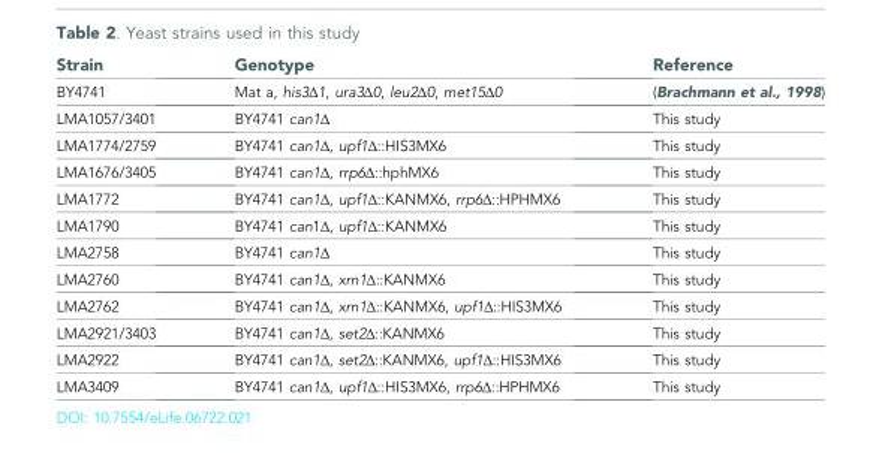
<table><thead><tr><td>Strain</td><td>Genotype</td><td>Reference</td></tr></thead><tbody><tr><td>BY4741</td><td>Mat a, his3Δ1, ura3Δ0, leu2Δ0, met15Δ0</td><td>(Brachmann et al., 1998)</td></tr><tr><td>LMA1057/3401</td><td>BY4741 can1Δ</td><td>This study</td></tr><tr><td>LMA1774/2759</td><td>BY4741 can1Δ, upf1Δ::HIS3MX6</td><td>This study</td></tr><tr><td>LMA1676/3405</td><td>BY4741 can1Δ, rrp6Δ::hphMX6</td><td>This study</td></tr><tr><td>LMA1772</td><td>BY4741 can1Δ, upf1Δ::KANMX6, rrp6Δ::HPHMX6</td><td>This study</td></tr><tr><td>LMA1790</td><td>BY4741 can1Δ, upf1Δ::KANMX6</td><td>This study</td></tr><tr><td>LMA2758</td><td>BY4741 can1Δ</td><td>This study</td></tr><tr><td>LMA2760</td><td>BY4741 can1Δ, xrn1Δ::KANMX6</td><td>This study</td></tr><tr><td>LMA2762</td><td>BY4741 can1Δ, xrn1Δ::KANMX6, upf1Δ::HIS3MX6</td><td>This study</td></tr><tr><td>LMA2921/3403</td><td>BY4741 can1Δ, set2Δ::KANMX6</td><td>This study</td></tr><tr><td>LMA2922</td><td>BY4741 can1Δ, set2Δ::KANMX6, upf1Δ::HIS3MX6</td><td>This study</td></tr><tr><td>LMA3409</td><td>BY4741 can1Δ, upf1Δ::HIS3MX6, rrp6Δ::HPHMX6</td><td>This study</td></tr></tbody></table>